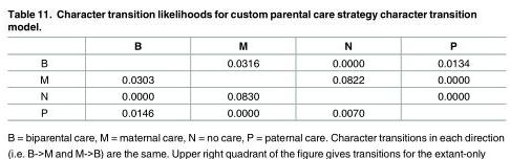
<table><thead><tr><td></td><td>B</td><td>M</td><td>N</td><td>P</td></tr></thead><tbody><tr><td>B</td><td></td><td>0.0316</td><td>0.0000</td><td>0.0134</td></tr><tr><td>M</td><td>0.0303</td><td></td><td>0.0822</td><td>0.0000</td></tr><tr><td>N</td><td>0.0000</td><td>0.0830</td><td></td><td>0.0000</td></tr><tr><td>P</td><td>0.0146</td><td>0.0000</td><td>0.0070</td><td></td></tr></tbody></table>